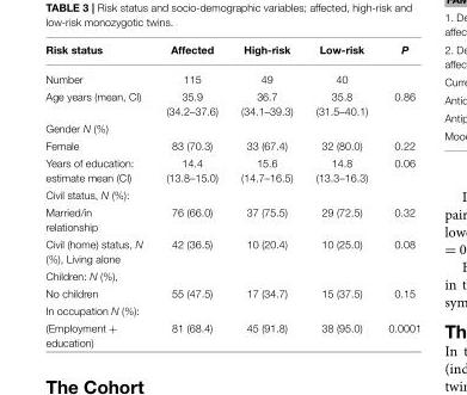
<table><thead><tr><td>Risk status</td><td>Affected</td><td>High-risk</td><td>Low-risk</td><td>P</td></tr></thead><tbody><tr><td>Number</td><td>115</td><td>49</td><td>40</td><td></td></tr><tr><td>Age years (mean, CI)</td><td>35.9 (34.2–37.6)</td><td>36.7 (34.1–39.3)</td><td>35.8 (31.5–40.1)</td><td>0.86</td></tr><tr><td colspan="5">Gender N (%)</td></tr><tr><td>Female</td><td>83 (70.3)</td><td>33 (67.4)</td><td>32 (80.0)</td><td>0.22</td></tr><tr><td>Years of education: estimate mean (CI)</td><td>14.4 (13.8–15.0)</td><td>15.6 (14.7–16.5)</td><td>14.8 (13.3–16.3)</td><td>0.06</td></tr><tr><td colspan="5">Civil status, N (%):</td></tr><tr><td>Married/in relationship</td><td>76 (66.0)</td><td>37 (75.5)</td><td>29 (72.5)</td><td>0.32</td></tr><tr><td>Civil (home) status, N (%), Living alone</td><td>42 (36.5)</td><td>10 (20.4)</td><td>10 (25.0)</td><td>0.08</td></tr><tr><td colspan="5">Children: N (%),</td></tr><tr><td>No children</td><td>55 (47.5)</td><td>17 (34.7)</td><td>15 (37.5)</td><td>0.15</td></tr><tr><td colspan="5">In occupation N (%):</td></tr><tr><td>(Employment + education)</td><td>81 (68.4)</td><td>45 (91.8)</td><td>38 (95.0)</td><td>0.0001</td></tr></tbody></table>